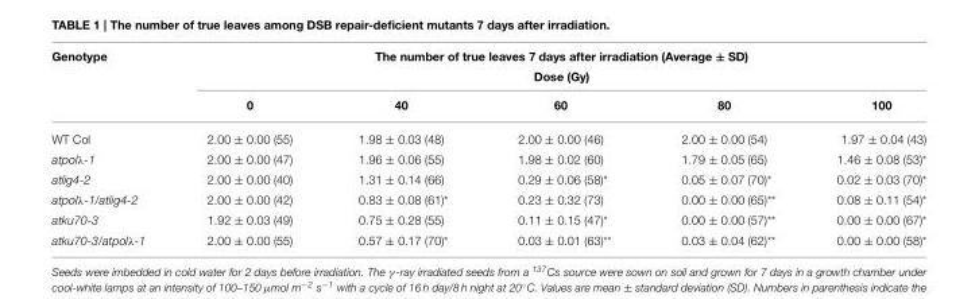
<table><thead><tr><td rowspan="3">Genotype</td><td rowspan="2" colspan="5">The number of true leaves 7 days after irradiation (Average ± SD) Dose (Gy)</td></tr><tr></tr><tr><td>0</td><td>40</td><td>60</td><td>80</td><td>100</td></tr></thead><tbody><tr><td>WT Col</td><td>2.00 ± 0.00 (55)</td><td>1.98 ± 0.03 (48)</td><td>2.00 ± 0.00 (46)</td><td>2.00 ± 0.00 (54)</td><td>1.97 ± 0.04 (43)</td></tr><tr><td>atpolλ-1</td><td>2.00 ± 0.00 (47)</td><td>1.96 ± 0.06 (55)</td><td>1.98 ± 0.02 (60)</td><td>1.79 ± 0.05 (65)</td><td>1.46 ± 0.08 (53)*</td></tr><tr><td>atlig4-2</td><td>2.00 ± 0.00 (40)</td><td>1.31 ± 0.14 (66)</td><td>0.29 ± 0.06 (58)*</td><td>0.05 ± 0.07 (70)*</td><td>0.02 ± 0.03 (70)*</td></tr><tr><td>atpolλ-1/atlig4-2</td><td>2.00 ± 0.00 (42)</td><td>0.83 ± 0.08 (61)*</td><td>0.23 ± 0.32 (73)</td><td>0.00 ± 0.00 (65)**</td><td>0.08 ± 0.11 (54)*</td></tr><tr><td>atku70-3</td><td>1.92 ± 0.03 (49)</td><td>0.75 ± 0.28 (55)</td><td>0.11 ± 0.15 (47)*</td><td>0.00 ± 0.00 (57)**</td><td>0.00 ± 0.00 (67)*</td></tr><tr><td>atku70-3/atpolλ-1</td><td>2.00 ± 0.00 (55)</td><td>0.57 ± 0.17 (70)*</td><td>0.03 ± 0.01 (63)**</td><td>0.03 ± 0.04 (62)**</td><td>0.00 ± 0.00 (58)*</td></tr></tbody></table>